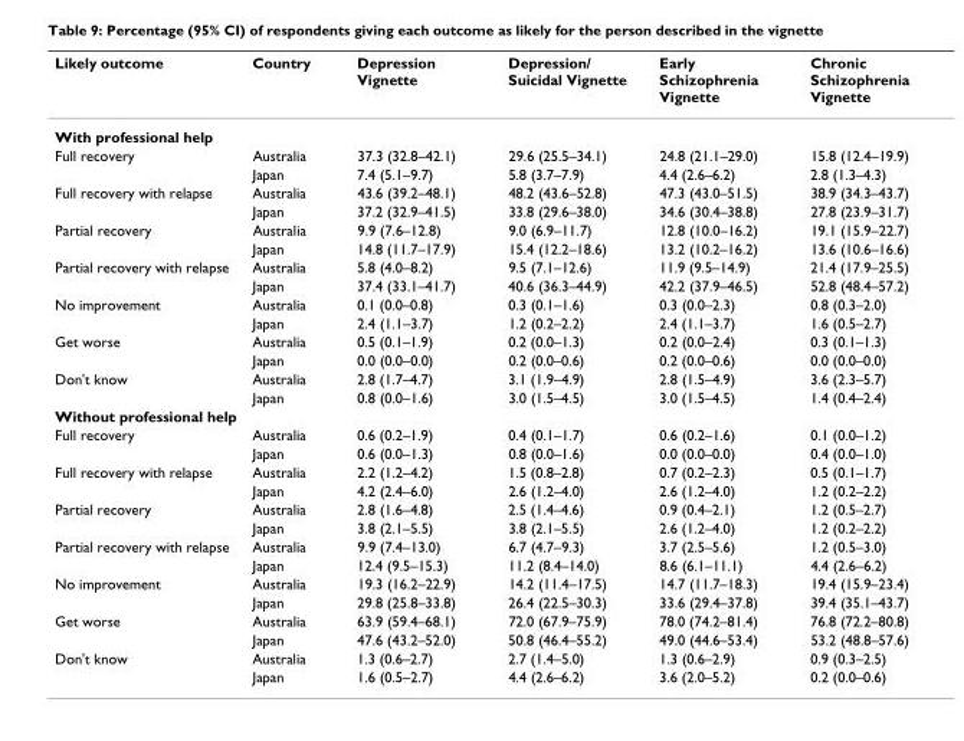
<table><thead><tr><td>Likely outcome</td><td>Country</td><td>Depression Vignette</td><td>Depression/ Suicidal Vignette</td><td>Early Schizophrenia Vignette</td><td>Chronic Schizophrenia Vignette</td></tr></thead><tbody><tr><td colspan="6">With professional help</td></tr><tr><td rowspan="2">Full recovery</td><td>Australia</td><td>37.3 (32.8–42.1)</td><td>29.6 (25.5–34.1)</td><td>24.8 (21.1–29.0)</td><td>15.8 (12.4–19.9)</td></tr><tr><td>Japan</td><td>7.4 (5.1–9.7)</td><td>5.8 (3.7–7.9)</td><td>4.4 (2.6–6.2)</td><td>2.8 (1.3–4.3)</td></tr><tr><td rowspan="2">Full recovery with relapse</td><td>Australia</td><td>43.6 (39.2–48.1)</td><td>48.2 (43.6–52.8)</td><td>47.3 (43.0–51.5)</td><td>38.9 (34.3–43.7)</td></tr><tr><td>Japan</td><td>37.2 (32.9–41.5)</td><td>33.8 (29.6–38.0)</td><td>34.6 (30.4–38.8)</td><td>27.8 (23.9–31.7)</td></tr><tr><td rowspan="2">Partial recovery</td><td>Australia</td><td>9.9 (7.6–12.8)</td><td>9.0 (6.9–11.7)</td><td>12.8 (10.0–16.2)</td><td>19.1 (15.9–22.7)</td></tr><tr><td>Japan</td><td>14.8 (11.7–17.9)</td><td>15.4 (12.2–18.6)</td><td>13.2 (10.2–16.2)</td><td>13.6 (10.6–16.6)</td></tr><tr><td rowspan="2">Partial recovery with relapse</td><td>Australia</td><td>5.8 (4.0–8.2)</td><td>9.5 (7.1–12.6)</td><td>11.9 (9.5–14.9)</td><td>21.4 (17.9–25.5)</td></tr><tr><td>Japan</td><td>37.4 (33.1–41.7)</td><td>40.6 (36.3–44.9)</td><td>42.2 (37.9–46.5)</td><td>52.8 (48.4–57.2)</td></tr><tr><td rowspan="2">No improvement</td><td>Australia</td><td>0.1 (0.0–0.8)</td><td>0.3 (0.1–1.6)</td><td>0.3 (0.0–2.3)</td><td>0.8 (0.3–2.0)</td></tr><tr><td>Japan</td><td>2.4 (1.1–3.7)</td><td>1.2 (0.2–2.2)</td><td>2.4 (1.1–3.7)</td><td>1.6 (0.5–2.7)</td></tr><tr><td rowspan="2">Get worse</td><td>Australia</td><td>0.5 (0.1–1.9)</td><td>0.2 (0.0–1.3)</td><td>0.2 (0.0–2.4)</td><td>0.3 (0.1–1.3)</td></tr><tr><td>Japan</td><td>0.0 (0.0–0.0)</td><td>0.2 (0.0–0.6)</td><td>0.2 (0.0–0.6)</td><td>0.0 (0.0–0.0)</td></tr><tr><td rowspan="2">Don&#x27;t know</td><td>Australia</td><td>2.8 (1.7–4.7)</td><td>3.1 (1.9–4.9)</td><td>2.8 (1.5–4.9)</td><td>3.6 (2.3–5.7)</td></tr><tr><td>Japan</td><td>0.8 (0.0–1.6)</td><td>3.0 (1.5–4.5)</td><td>3.0 (1.5–4.5)</td><td>1.4 (0.4–2.4)</td></tr><tr><td colspan="6">Without professional help</td></tr><tr><td rowspan="2">Full recovery</td><td>Australia</td><td>0.6 (0.2–1.9)</td><td>0.4 (0.1–1.7)</td><td>0.6 (0.2–1.6)</td><td>0.1 (0.0–1.2)</td></tr><tr><td>Japan</td><td>0.6 (0.0–1.3)</td><td>0.8 (0.0–1.6)</td><td>0.0 (0.0–0.0)</td><td>0.4 (0.0–1.0)</td></tr><tr><td rowspan="2">Full recovery with relapse</td><td>Australia</td><td>2.2 (1.2–4.2)</td><td>1.5 (0.8–2.8)</td><td>0.7 (0.2–2.3)</td><td>0.5 (0.1–1.7)</td></tr><tr><td>Japan</td><td>4.2 (2.4–6.0)</td><td>2.6 (1.2–4.0)</td><td>2.6 (1.2–4.0)</td><td>1.2 (0.2–2.2)</td></tr><tr><td rowspan="2">Partial recovery</td><td>Australia</td><td>2.8 (1.6–4.8)</td><td>2.5 (1.4–4.6)</td><td>0.9 (0.4–2.1)</td><td>1.2 (0.5–2.7)</td></tr><tr><td>Japan</td><td>3.8 (2.1–5.5)</td><td>3.8 (2.1–5.5)</td><td>2.6 (1.2–4.0)</td><td>1.2 (0.2–2.2)</td></tr><tr><td rowspan="2">Partial recovery with relapse</td><td>Australia</td><td>9.9 (7.4–13.0)</td><td>6.7 (4.7–9.3)</td><td>3.7 (2.5–5.6)</td><td>1.2 (0.5–3.0)</td></tr><tr><td>Japan</td><td>12.4 (9.5–15.3)</td><td>11.2 (8.4–14.0)</td><td>8.6 (6.1–11.1)</td><td>4.4 (2.6–6.2)</td></tr><tr><td rowspan="2">No improvement</td><td>Australia</td><td>19.3 (16.2–22.9)</td><td>14.2 (11.4–17.5)</td><td>14.7 (11.7–18.3)</td><td>19.4 (15.9–23.4)</td></tr><tr><td>Japan</td><td>29.8 (25.8–33.8)</td><td>26.4 (22.5–30.3)</td><td>33.6 (29.4–37.8)</td><td>39.4 (35.1–43.7)</td></tr><tr><td rowspan="2">Get worse</td><td>Australia</td><td>63.9 (59.4–68.1)</td><td>72.0 (67.9–75.9)</td><td>78.0 (74.2–81.4)</td><td>76.8 (72.2–80.8)</td></tr><tr><td>Japan</td><td>47.6 (43.2–52.0)</td><td>50.8 (46.4–55.2)</td><td>49.0 (44.6–53.4)</td><td>53.2 (48.8–57.6)</td></tr><tr><td rowspan="2">Don&#x27;t know</td><td>Australia</td><td>1.3 (0.6–2.7)</td><td>2.7 (1.4–5.0)</td><td>1.3 (0.6–2.9)</td><td>0.9 (0.3–2.5)</td></tr><tr><td>Japan</td><td>1.6 (0.5–2.7)</td><td>4.4 (2.6–6.2)</td><td>3.6 (2.0–5.2)</td><td>0.2 (0.0–0.6)</td></tr></tbody></table>